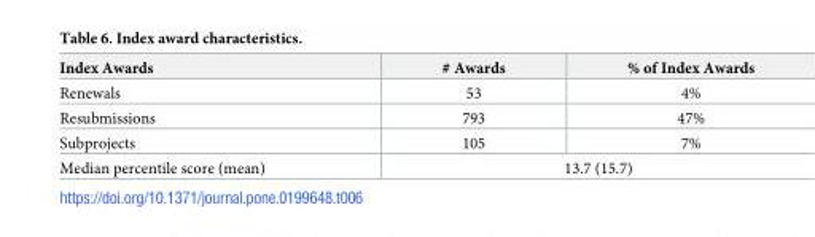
<table><thead><tr><td>Index Awards</td><td># Awards</td><td>% of Index Awards</td></tr></thead><tbody><tr><td>Renewals</td><td>53</td><td>4%</td></tr><tr><td>Resubmissions</td><td>793</td><td>47%</td></tr><tr><td>Subprojects</td><td>105</td><td>7%</td></tr><tr><td>Median percentile score (mean)</td><td colspan="2">13.7 (15.7)</td></tr></tbody></table>